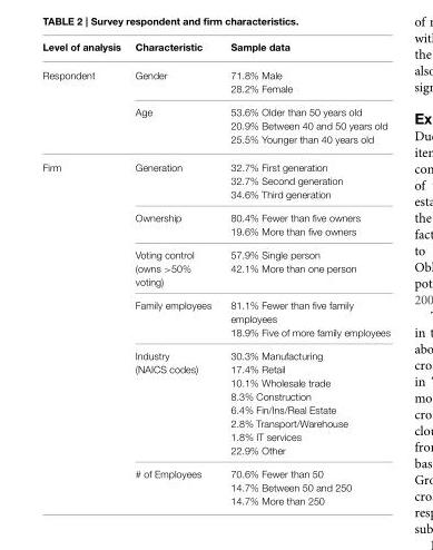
<table><thead><tr><td>Level of analysis</td><td>Characteristic</td><td>Sample data</td></tr></thead><tbody><tr><td rowspan="2">Respondent</td><td>Gender</td><td>71.8% Male 28.2% Female</td></tr><tr><td>Age</td><td>53.6% Older than 50 years old 20.9% Between 40 and 50 years old 25.5% Younger than 40 years old</td></tr><tr><td rowspan="6">Firm</td><td>Generation</td><td>32.7% First generation 32.7% Second generation 34.6% Third generation</td></tr><tr><td>Ownership</td><td>80.4% Fewer than five owners 19.6% More than five owners</td></tr><tr><td>Voting control (owns &gt;50% voting)</td><td>57.9% Single person 42.1% More than one person</td></tr><tr><td>Family employees</td><td>81.1% Fewer than five family employees 18.9% Five of more family employees</td></tr><tr><td>Industry (NAICS codes)</td><td>30.3% Manufacturing 17.4% Retail 10.1% Wholesale trade 8.3% Construction 6.4% Fin/Ins/Real Estate 2.8% Transport/Warehouse 1.8% IT services 22.9% Other</td></tr><tr><td># of Employees</td><td>70.6% Fewer than 50 14.7% Between 50 and 250 14.7% More than 250</td></tr></tbody></table>